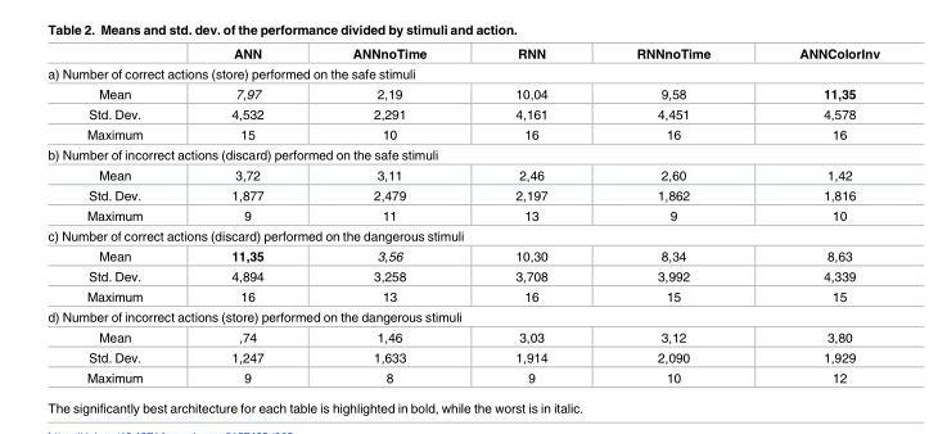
<table><thead><tr><td></td><td>ANN</td><td>ANNnoTime</td><td>RNN</td><td>RNNnoTime</td><td>ANNColorInv</td></tr></thead><tbody><tr><td colspan="6">a) Number of correct actions (store) performed on the safe stimuli</td></tr><tr><td>Mean</td><td>7,97</td><td>2,19</td><td>10,04</td><td>9,58</td><td>11,35</td></tr><tr><td>Std. Dev.</td><td>4,532</td><td>2,291</td><td>4,161</td><td>4,451</td><td>4,578</td></tr><tr><td>Maximum</td><td>15</td><td>10</td><td>16</td><td>16</td><td>16</td></tr><tr><td colspan="6">b) Number of incorrect actions (discard) performed on the safe stimuli</td></tr><tr><td>Mean</td><td>3,72</td><td>3,11</td><td>2,46</td><td>2,60</td><td>1,42</td></tr><tr><td>Std. Dev.</td><td>1,877</td><td>2,479</td><td>2,197</td><td>1,862</td><td>1,816</td></tr><tr><td>Maximum</td><td>9</td><td>11</td><td>13</td><td>9</td><td>10</td></tr><tr><td colspan="6">c) Number of correct actions (discard) performed on the dangerous stimuli</td></tr><tr><td>Mean</td><td>11,35</td><td>3,56</td><td>10,30</td><td>8,34</td><td>8,63</td></tr><tr><td>Std. Dev.</td><td>4,894</td><td>3,258</td><td>3,708</td><td>3,992</td><td>4,339</td></tr><tr><td>Maximum</td><td>16</td><td>13</td><td>16</td><td>15</td><td>15</td></tr><tr><td colspan="6">d) Number of incorrect actions (store) performed on the dangerous stimuli</td></tr><tr><td>Mean</td><td>,74</td><td>1,46</td><td>3,03</td><td>3,12</td><td>3,80</td></tr><tr><td>Std. Dev.</td><td>1,247</td><td>1,633</td><td>1,914</td><td>2,090</td><td>1,929</td></tr><tr><td>Maximum</td><td>9</td><td>8</td><td>9</td><td>10</td><td>12</td></tr></tbody></table>